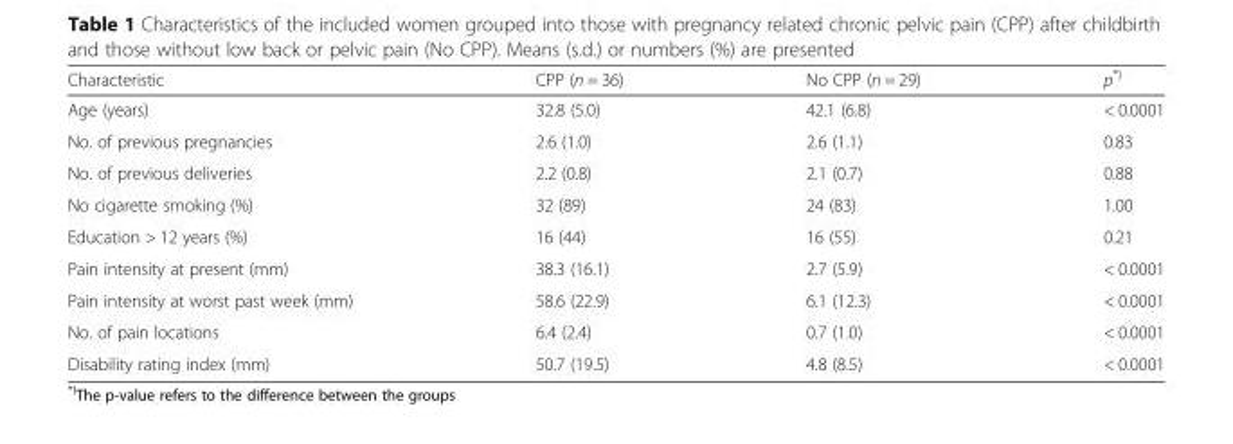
<table><thead><tr><td>Characteristic</td><td>CPP (n = 36)</td><td>No CPP (n = 29)</td><td>p<sup>*)</sup></td></tr></thead><tbody><tr><td>Age (years)</td><td>32.8 (5.0)</td><td>42.1 (6.8)</td><td>&lt; 0.0001</td></tr><tr><td>No. of previous pregnancies</td><td>2.6 (1.0)</td><td>2.6 (1.1)</td><td>0.83</td></tr><tr><td>No. of previous deliveries</td><td>2.2 (0.8)</td><td>2.1 (0.7)</td><td>0.88</td></tr><tr><td>No cigarette smoking (%)</td><td>32 (89)</td><td>24 (83)</td><td>1.00</td></tr><tr><td>Education &gt; 12 years (%)</td><td>16 (44)</td><td>16 (55)</td><td>0.21</td></tr><tr><td>Pain intensity at present (mm)</td><td>38.3 (16.1)</td><td>2.7 (5.9)</td><td>&lt; 0.0001</td></tr><tr><td>Pain intensity at worst past week (mm)</td><td>58.6 (22.9)</td><td>6.1 (12.3)</td><td>&lt; 0.0001</td></tr><tr><td>No. of pain locations</td><td>6.4 (2.4)</td><td>0.7 (1.0)</td><td>&lt; 0.0001</td></tr><tr><td>Disability rating index (mm)</td><td>50.7 (19.5)</td><td>4.8 (8.5)</td><td>&lt; 0.0001</td></tr></tbody></table>